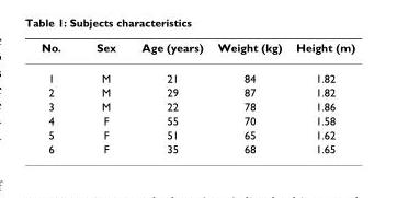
<table><thead><tr><td>No.</td><td>Sex</td><td>Age (years)</td><td>Weight (kg)</td><td>Height (m)</td></tr></thead><tbody><tr><td>1</td><td>M</td><td>21</td><td>84</td><td>1.82</td></tr><tr><td>2</td><td>M</td><td>29</td><td>87</td><td>1.82</td></tr><tr><td>3</td><td>M</td><td>22</td><td>78</td><td>1.86</td></tr><tr><td>4</td><td>F</td><td>55</td><td>70</td><td>1.58</td></tr><tr><td>5</td><td>F</td><td>51</td><td>65</td><td>1.62</td></tr><tr><td>6</td><td>F</td><td>35</td><td>68</td><td>1.65</td></tr></tbody></table>